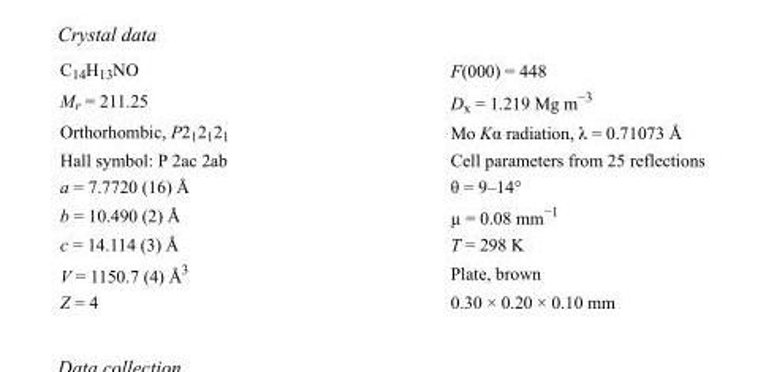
<table><tbody><tr><td>C<sub>14</sub>H<sub>13</sub>NO</td><td>F(000) = 448</td></tr><tr><td>M<sub>r</sub> = 211.25</td><td>D<sub>x</sub> = 1.219 Mg m<sup>−3</sup></td></tr><tr><td>Orthorhombic, P2<sub>1</sub>2<sub>1</sub>2<sub>1</sub></td><td>Mo Kα radiation, λ = 0.71073 Å</td></tr><tr><td>Hall symbol: P 2ac 2ab</td><td>Cell parameters from 25 reflections</td></tr><tr><td>a = 7.7720 (16) Å</td><td>θ = 9–14°</td></tr><tr><td>b = 10.490 (2) Å</td><td>µ = 0.08 mm<sup>−1</sup></td></tr><tr><td>c = 14.114 (3) Å</td><td>T = 298 K</td></tr><tr><td>V = 1150.7 (4) Å<sup>3</sup></td><td>Plate, brown</td></tr><tr><td>Z = 4</td><td>0.30 × 0.20 × 0.10 mm</td></tr></tbody></table>